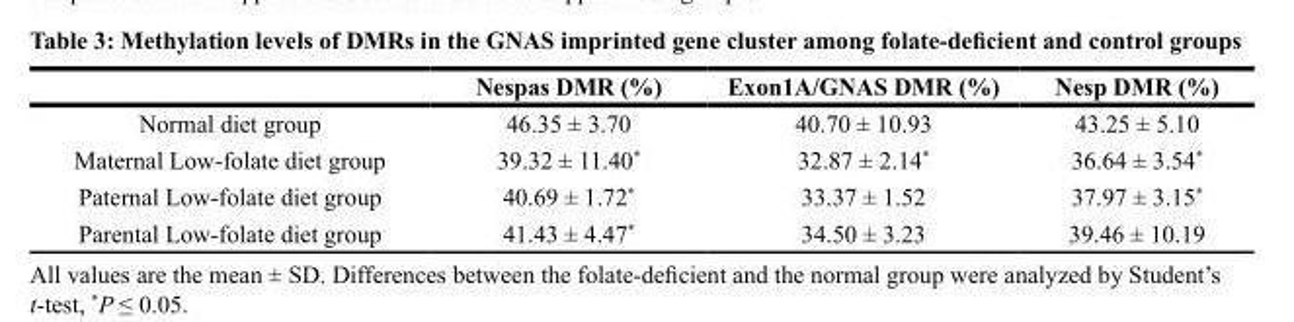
<table><thead><tr><td></td><td>Nespas DMR (%)</td><td>Exon1A/GNAS DMR (%)</td><td>Nesp DMR (%)</td></tr></thead><tbody><tr><td>Normal diet group</td><td>46.35 ± 3.70</td><td>40.70 ± 10.93</td><td>43.25 ± 5.10</td></tr><tr><td>Maternal Low-folate diet group</td><td>39.32 ± 11.40*</td><td>32.87 ± 2.14*</td><td>36.64 ± 3.54*</td></tr><tr><td>Paternal Low-folate diet group</td><td>40.69 ± 1.72*</td><td>33.37 ± 1.52</td><td>37.97 ± 3.15*</td></tr><tr><td>Parental Low-folate diet group</td><td>41.43 ± 4.47*</td><td>34.50 ± 3.23</td><td>39.46 ± 10.19</td></tr></tbody></table>